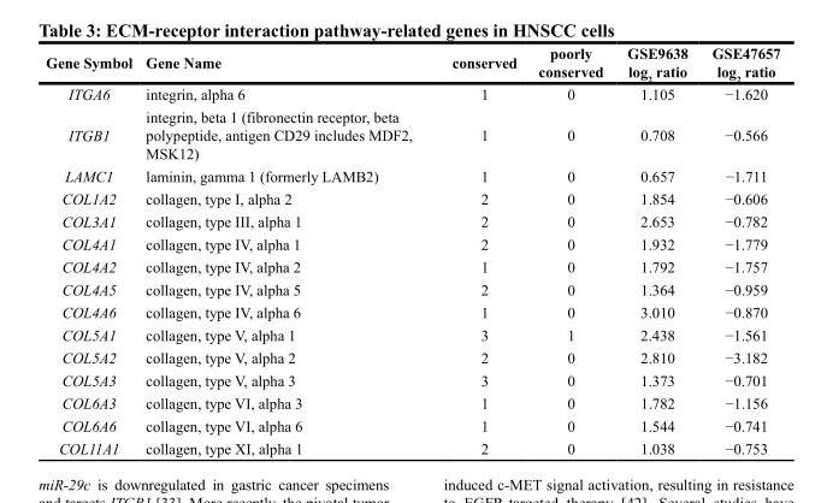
<table><thead><tr><td>Gene Symbol</td><td>Gene Name</td><td>conserved</td><td>poorly conserved</td><td>GSE9638 log<sub>2</sub> ratio</td><td>GSE47657 log<sub>2</sub> ratio</td></tr></thead><tbody><tr><td>ITGA6</td><td>integrin, alpha 6</td><td>1</td><td>0</td><td>1.105</td><td>−1.620</td></tr><tr><td>ITGB1</td><td>integrin, beta 1 (fibronectin receptor, beta polypeptide, antigen CD29 includes MDF2, MSK12)</td><td>1</td><td>0</td><td>0.708</td><td>−0.566</td></tr><tr><td>LAMC1</td><td>laminin, gamma 1 (formerly LAMB2)</td><td>1</td><td>0</td><td>0.657</td><td>−1.711</td></tr><tr><td>COL1A2</td><td>collagen, type I, alpha 2</td><td>2</td><td>0</td><td>1.854</td><td>−0.606</td></tr><tr><td>COL3A1</td><td>collagen, type III, alpha 1</td><td>2</td><td>0</td><td>2.653</td><td>−0.782</td></tr><tr><td>COL4A1</td><td>collagen, type IV, alpha 1</td><td>2</td><td>0</td><td>1.932</td><td>−1.779</td></tr><tr><td>COL4A2</td><td>collagen, type IV, alpha 2</td><td>1</td><td>0</td><td>1.792</td><td>−1.757</td></tr><tr><td>COL4A5</td><td>collagen, type IV, alpha 5</td><td>2</td><td>0</td><td>1.364</td><td>−0.959</td></tr><tr><td>COL4A6</td><td>collagen, type IV, alpha 6</td><td>1</td><td>0</td><td>3.010</td><td>−0.870</td></tr><tr><td>COL5A1</td><td>collagen, type V, alpha 1</td><td>3</td><td>1</td><td>2.438</td><td>−1.561</td></tr><tr><td>COL5A2</td><td>collagen, type V, alpha 2</td><td>2</td><td>0</td><td>2.810</td><td>−3.182</td></tr><tr><td>COL5A3</td><td>collagen, type V, alpha 3</td><td>3</td><td>0</td><td>1.373</td><td>−0.701</td></tr><tr><td>COL6A3</td><td>collagen, type VI, alpha 3</td><td>1</td><td>0</td><td>1.782</td><td>−1.156</td></tr><tr><td>COL6A6</td><td>collagen, type VI, alpha 6</td><td>1</td><td>0</td><td>1.544</td><td>−0.741</td></tr><tr><td>COL11A1</td><td>collagen, type XI, alpha 1</td><td>2</td><td>0</td><td>1.038</td><td>−0.753</td></tr></tbody></table>